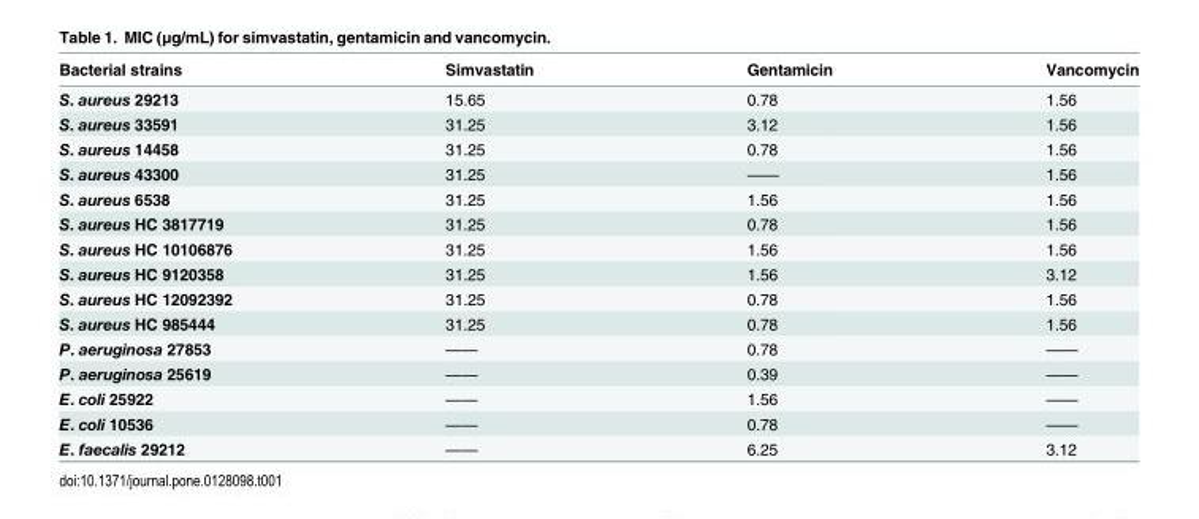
<table><thead><tr><td>Bacterial strains</td><td>Simvastatin</td><td>Gentamicin</td><td>Vancomycin</td></tr></thead><tbody><tr><td>S. aureus 29213</td><td>15.65</td><td>0.78</td><td>1.56</td></tr><tr><td>S. aureus 33591</td><td>31.25</td><td>3.12</td><td>1.56</td></tr><tr><td>S. aureus 14458</td><td>31.25</td><td>0.78</td><td>1.56</td></tr><tr><td>S. aureus 43300</td><td>31.25</td><td>——</td><td>1.56</td></tr><tr><td>S. aureus 6538</td><td>31.25</td><td>1.56</td><td>1.56</td></tr><tr><td>S. aureus HC 3817719</td><td>31.25</td><td>0.78</td><td>1.56</td></tr><tr><td>S. aureus HC 10106876</td><td>31.25</td><td>1.56</td><td>1.56</td></tr><tr><td>S. aureus HC 9120358</td><td>31.25</td><td>1.56</td><td>3.12</td></tr><tr><td>S. aureus HC 12092392</td><td>31.25</td><td>0.78</td><td>1.56</td></tr><tr><td>S. aureus HC 985444</td><td>31.25</td><td>0.78</td><td>1.56</td></tr><tr><td>P. aeruginosa 27853</td><td>——</td><td>0.78</td><td>——</td></tr><tr><td>P. aeruginosa 25619</td><td>——</td><td>0.39</td><td>——</td></tr><tr><td>E. coli 25922</td><td>——</td><td>1.56</td><td>——</td></tr><tr><td>E. coli 10536</td><td>——</td><td>0.78</td><td>——</td></tr><tr><td>E. faecalis 29212</td><td>——</td><td>6.25</td><td>3.12</td></tr></tbody></table>